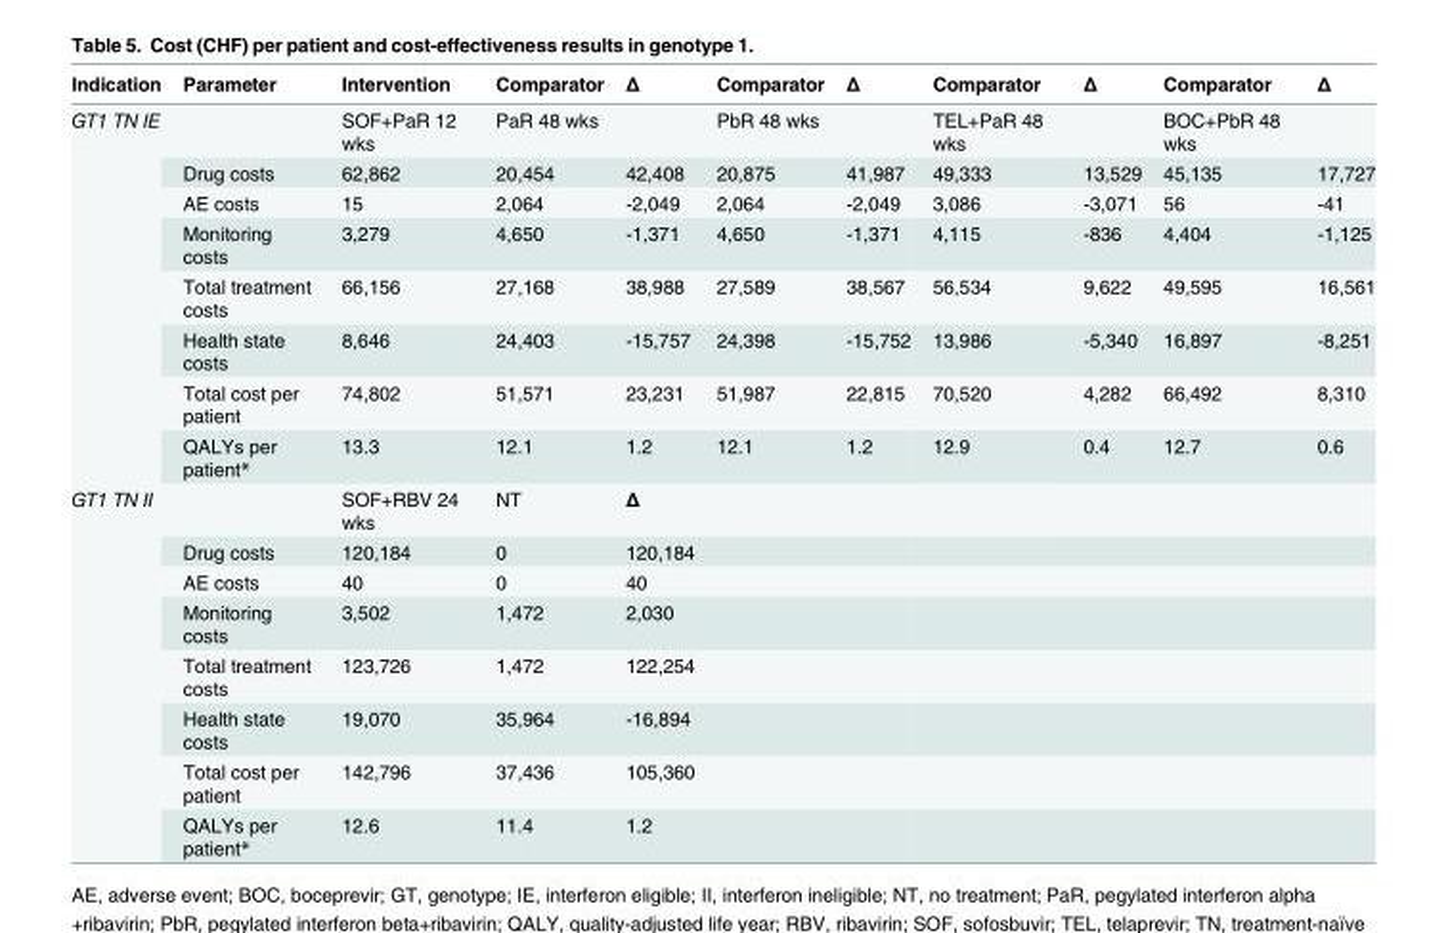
<table><thead><tr><td>Indication</td><td>Parameter</td><td>Intervention</td><td>Comparator</td><td>Δ</td><td>Comparator</td><td>Δ</td><td>Comparator</td><td>Δ</td><td>Comparator</td><td>Δ</td></tr></thead><tbody><tr><td rowspan="8">GT1 TN IE</td><td></td><td>SOF+PaR 12 wks</td><td>PaR 48 wks</td><td></td><td>PbR 48 wks</td><td></td><td>TEL+PaR 48 wks</td><td></td><td>BOC+PbR 48 wks</td><td></td></tr><tr><td>Drug costs</td><td>62,862</td><td>20,454</td><td>42,408</td><td>20,875</td><td>41,987</td><td>49,333</td><td>13,529</td><td>45,135</td><td>17,727</td></tr><tr><td>AE costs</td><td>15</td><td>2,064</td><td>-2,049</td><td>2,064</td><td>-2,049</td><td>3,086</td><td>-3,071</td><td>56</td><td>-41</td></tr><tr><td>Monitoring costs</td><td>3,279</td><td>4,650</td><td>-1,371</td><td>4,650</td><td>-1,371</td><td>4,115</td><td>-836</td><td>4,404</td><td>-1,125</td></tr><tr><td>Total treatment costs</td><td>66,156</td><td>27,168</td><td>38,988</td><td>27,589</td><td>38,567</td><td>56,534</td><td>9,622</td><td>49,595</td><td>16,561</td></tr><tr><td>Health state costs</td><td>8,646</td><td>24,403</td><td>-15,757</td><td>24,398</td><td>-15,752</td><td>13,986</td><td>-5,340</td><td>16,897</td><td>-8,251</td></tr><tr><td>Total cost per patient</td><td>74,802</td><td>51,571</td><td>23,231</td><td>51,987</td><td>22,815</td><td>70,520</td><td>4,282</td><td>66,492</td><td>8,310</td></tr><tr><td>QALYs per patient*</td><td>13.3</td><td>12.1</td><td>1.2</td><td>12.1</td><td>1.2</td><td>12.9</td><td>0.4</td><td>12.7</td><td>0.6</td></tr><tr><td rowspan="8">GT1 TN II</td><td></td><td>SOF+RBV 24 wks</td><td>NT</td><td>Δ</td><td></td><td></td><td></td><td></td><td></td><td></td></tr><tr><td>Drug costs</td><td>120,184</td><td>0</td><td>120,184</td><td></td><td></td><td></td><td></td><td></td><td></td></tr><tr><td>AE costs</td><td>40</td><td>0</td><td>40</td><td></td><td></td><td></td><td></td><td></td><td></td></tr><tr><td>Monitoring costs</td><td>3,502</td><td>1,472</td><td>2,030</td><td></td><td></td><td></td><td></td><td></td><td></td></tr><tr><td>Total treatment costs</td><td>123,726</td><td>1,472</td><td>122,254</td><td></td><td></td><td></td><td></td><td></td><td></td></tr><tr><td>Health state costs</td><td>19,070</td><td>35,964</td><td>-16,894</td><td></td><td></td><td></td><td></td><td></td><td></td></tr><tr><td>Total cost per patient</td><td>142,796</td><td>37,436</td><td>105,360</td><td></td><td></td><td></td><td></td><td></td><td></td></tr><tr><td>QALYs per patient*</td><td>12.6</td><td>11.4</td><td>1.2</td><td></td><td></td><td></td><td></td><td></td><td></td></tr></tbody></table>